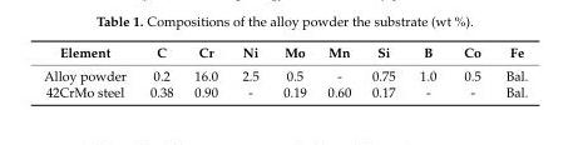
<table><thead><tr><td>Element</td><td>C</td><td>Cr</td><td>Ni</td><td>Mo</td><td>Mn</td><td>Si</td><td>B</td><td>Co</td><td>Fe</td></tr></thead><tbody><tr><td>Alloy powder</td><td>0.2</td><td>16.0</td><td>2.5</td><td>0.5</td><td>-</td><td>0.75</td><td>1.0</td><td>0.5</td><td>Bal.</td></tr><tr><td>42CrMo steel</td><td>0.38</td><td>0.90</td><td>-</td><td>0.19</td><td>0.60</td><td>0.17</td><td>-</td><td>-</td><td>Bal.</td></tr></tbody></table>